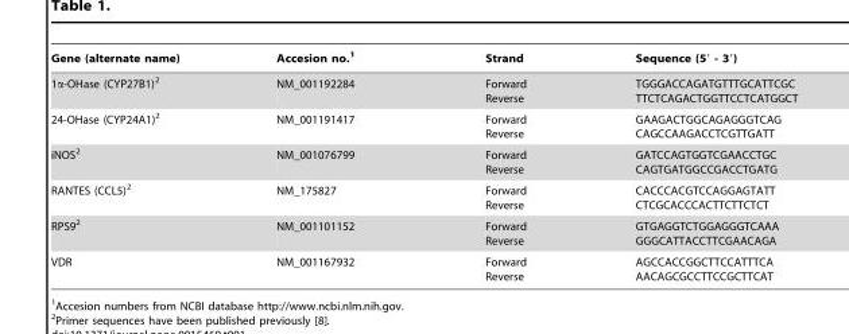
<table><thead><tr><td>Gene (alternate name)</td><td>Accesion no.<sup>1</sup></td><td>Strand</td><td>Sequence (5′ - 3′)</td></tr></thead><tbody><tr><td>1α-OHase (CYP27B1)<sup>2</sup></td><td>NM_001192284</td><td>Forward Reverse</td><td>TGGGACCAGATGTTTGCATTCGC TTCTCAGACTGGTTCCTCATGGCT</td></tr><tr><td>24-OHase (CYP24A1)<sup>2</sup></td><td>NM_001191417</td><td>Forward Reverse</td><td>GAAGACTGGCAGAGGGTCAG CAGCCAAGACCTCGTTGATT</td></tr><tr><td>iNOS<sup>2</sup></td><td>NM_001076799</td><td>Forward Reverse</td><td>GATCCAGTGGTCGAACCTGC CAGTGATGGCCGACCTGATG</td></tr><tr><td>RANTES (CCL5)<sup>2</sup></td><td>NM_175827</td><td>Forward Reverse</td><td>CACCCACGTCCAGGAGTATT CTCGCACCCACTTCTTCTCT</td></tr><tr><td>RPS9<sup>2</sup></td><td>NM_001101152</td><td>Forward Reverse</td><td>GTGAGGTCTGGAGGGTCAAA GGGCATTACCTTCGAACAGA</td></tr><tr><td>VDR</td><td>NM_001167932</td><td>Forward Reverse</td><td>AGCCACCGGCTTCCATTTCA AACAGCGCCTTCCGCTTCAT</td></tr></tbody></table>